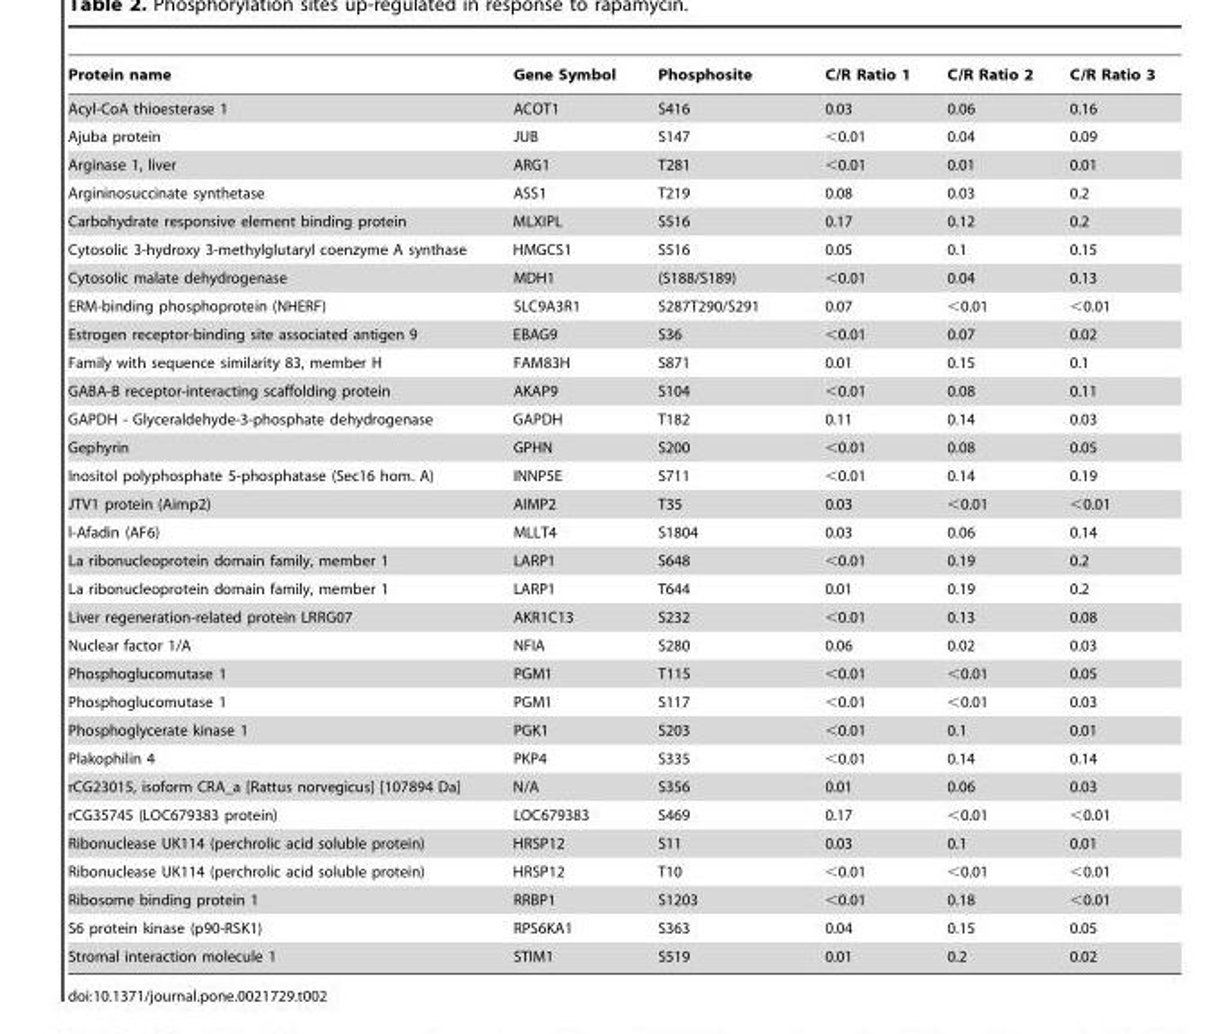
<table><thead><tr><td>Protein name</td><td>Gene Symbol</td><td>Phosphosite</td><td>C/R Ratio 1</td><td>C/R Ratio 2</td><td>C/R Ratio 3</td></tr></thead><tbody><tr><td>Acyl-CoA thioesterase 1</td><td>ACOT1</td><td>S416</td><td>0.03</td><td>0.06</td><td>0.16</td></tr><tr><td>Ajuba protein</td><td>JUB</td><td>S147</td><td>&lt;0.01</td><td>0.04</td><td>0.09</td></tr><tr><td>Arginase 1, liver</td><td>ARG1</td><td>T281</td><td>&lt;0.01</td><td>0.01</td><td>0.01</td></tr><tr><td>Argininosuccinate synthetase</td><td>ASS1</td><td>T219</td><td>0.08</td><td>0.03</td><td>0.2</td></tr><tr><td>Carbohydrate responsive element binding protein</td><td>MLXIPL</td><td>S516</td><td>0.17</td><td>0.12</td><td>0.2</td></tr><tr><td>Cytosolic 3-hydroxy 3-methylglutaryl coenzyme A synthase</td><td>HMGCS1</td><td>S516</td><td>0.05</td><td>0.1</td><td>0.15</td></tr><tr><td>Cytosolic malate dehydrogenase</td><td>MDH1</td><td>(S188/S189)</td><td>&lt;0.01</td><td>0.04</td><td>0.13</td></tr><tr><td>ERM-binding phosphoprotein (NHERF)</td><td>SLC9A3R1</td><td>S287T290/S291</td><td>0.07</td><td>&lt;0.01</td><td>&lt;0.01</td></tr><tr><td>Estrogen receptor-binding site associated antigen 9</td><td>EBAG9</td><td>S36</td><td>&lt;0.01</td><td>0.07</td><td>0.02</td></tr><tr><td>Family with sequence similarity 83, member H</td><td>FAM83H</td><td>S871</td><td>0.01</td><td>0.15</td><td>0.1</td></tr><tr><td>GABA-B receptor-interacting scaffolding protein</td><td>AKAP9</td><td>S104</td><td>&lt;0.01</td><td>0.08</td><td>0.11</td></tr><tr><td>GAPDH - Glyceraldehyde-3-phosphate dehydrogenase</td><td>GAPDH</td><td>T182</td><td>0.11</td><td>0.14</td><td>0.03</td></tr><tr><td>Gephyrin</td><td>GPHN</td><td>S200</td><td>&lt;0.01</td><td>0.08</td><td>0.05</td></tr><tr><td>Inositol polyphosphate 5-phosphatase (Sec16 hom. A)</td><td>INNP5E</td><td>S711</td><td>&lt;0.01</td><td>0.14</td><td>0.19</td></tr><tr><td>JTV1 protein (Aimp2)</td><td>AIMP2</td><td>T35</td><td>0.03</td><td>&lt;0.01</td><td>&lt;0.01</td></tr><tr><td>l-Afadin (AF6)</td><td>MLLT4</td><td>S1804</td><td>0.03</td><td>0.06</td><td>0.14</td></tr><tr><td>La ribonucleoprotein domain family, member 1</td><td>LARP1</td><td>S648</td><td>&lt;0.01</td><td>0.19</td><td>0.2</td></tr><tr><td>La ribonucleoprotein domain family, member 1</td><td>LARP1</td><td>T644</td><td>0.01</td><td>0.19</td><td>0.2</td></tr><tr><td>Liver regeneration-related protein LRRG07</td><td>AKR1C13</td><td>S232</td><td>&lt;0.01</td><td>0.13</td><td>0.08</td></tr><tr><td>Nuclear factor 1/A</td><td>NFIA</td><td>S280</td><td>0.06</td><td>0.02</td><td>0.03</td></tr><tr><td>Phosphoglucomutase 1</td><td>PGM1</td><td>T115</td><td>&lt;0.01</td><td>&lt;0.01</td><td>0.05</td></tr><tr><td>Phosphoglucomutase 1</td><td>PGM1</td><td>S117</td><td>&lt;0.01</td><td>&lt;0.01</td><td>0.03</td></tr><tr><td>Phosphoglycerate kinase 1</td><td>PGK1</td><td>S203</td><td>&lt;0.01</td><td>0.1</td><td>0.01</td></tr><tr><td>Plakophilin 4</td><td>PKP4</td><td>S335</td><td>&lt;0.01</td><td>0.14</td><td>0.14</td></tr><tr><td>rCG23015, isoform CRA_a [Rattus norvegicus] [107894 Da]</td><td>N/A</td><td>S356</td><td>0.01</td><td>0.06</td><td>0.03</td></tr><tr><td>rCG35745 (LOC679383 protein)</td><td>LOC679383</td><td>S469</td><td>0.17</td><td>&lt;0.01</td><td>&lt;0.01</td></tr><tr><td>Ribonuclease UK114 (perchrolic acid soluble protein)</td><td>HRSP12</td><td>S11</td><td>0.03</td><td>0.1</td><td>0.01</td></tr><tr><td>Ribonuclease UK114 (perchrolic acid soluble protein)</td><td>HRSP12</td><td>T10</td><td>&lt;0.01</td><td>&lt;0.01</td><td>&lt;0.01</td></tr><tr><td>Ribosome binding protein 1</td><td>RRBP1</td><td>S1203</td><td>&lt;0.01</td><td>0.18</td><td>&lt;0.01</td></tr><tr><td>S6 protein kinase (p90-RSK1)</td><td>RPS6KA1</td><td>S363</td><td>0.04</td><td>0.15</td><td>0.05</td></tr><tr><td>Stromal interaction molecule 1</td><td>STIM1</td><td>S519</td><td>0.01</td><td>0.2</td><td>0.02</td></tr></tbody></table>